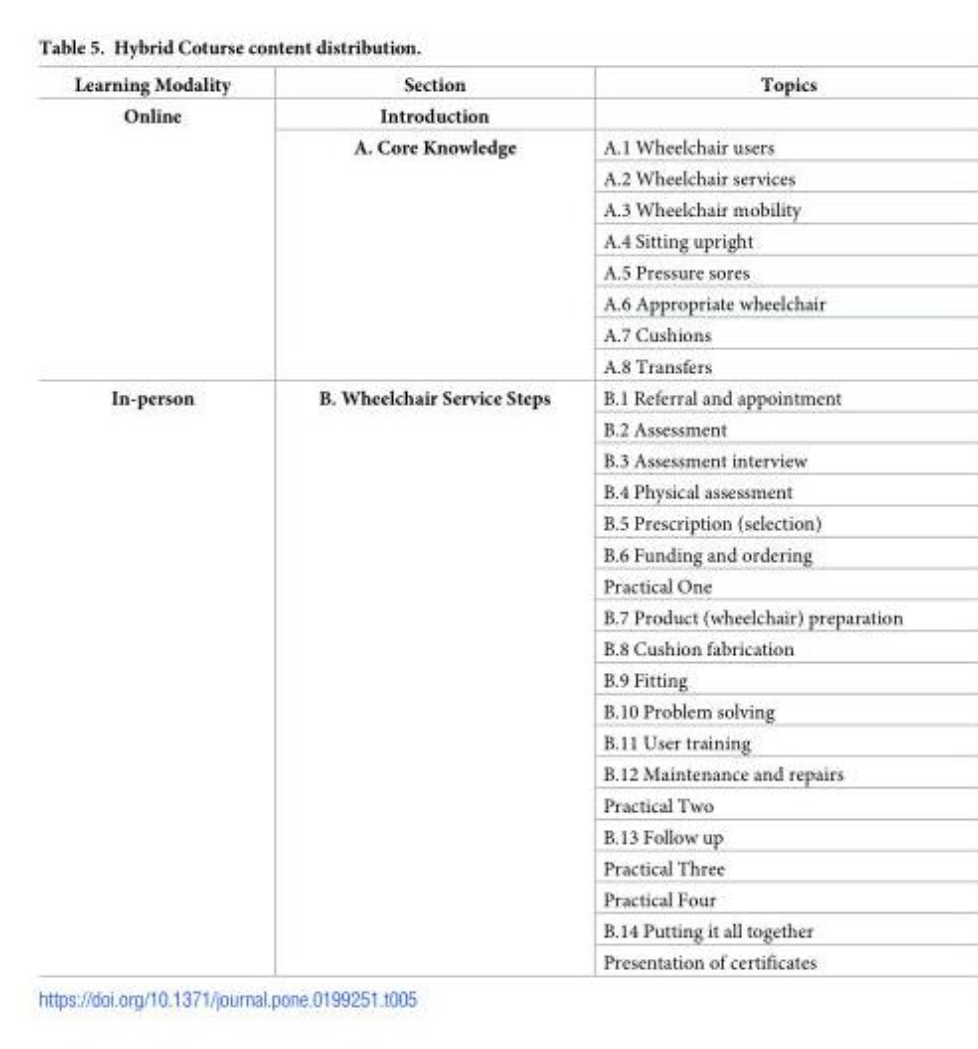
<table><thead><tr><td>Learning Modality</td><td>Section</td><td>Topics</td></tr></thead><tbody><tr><td rowspan="9">Online</td><td>Introduction</td><td></td></tr><tr><td rowspan="8">A. Core Knowledge</td><td>A.1 Wheelchair users</td></tr><tr><td>A.2 Wheelchair services</td></tr><tr><td>A.3 Wheelchair mobility</td></tr><tr><td>A.4 Sitting upright</td></tr><tr><td>A.5 Pressure sores</td></tr><tr><td>A.6 Appropriate wheelchair</td></tr><tr><td>A.7 Cushions</td></tr><tr><td>A.8 Transfers</td></tr><tr><td rowspan="19">In-person</td><td rowspan="19">B. Wheelchair Service Steps</td><td>B.1 Referral and appointment</td></tr><tr><td>B.2 Assessment</td></tr><tr><td>B.3 Assessment interview</td></tr><tr><td>B.4 Physical assessment</td></tr><tr><td>B.5 Prescription (selection)</td></tr><tr><td>B.6 Funding and ordering</td></tr><tr><td>Practical One</td></tr><tr><td>B.7 Product (wheelchair) preparation</td></tr><tr><td>B.8 Cushion fabrication</td></tr><tr><td>B.9 Fitting</td></tr><tr><td>B.10 Problem solving</td></tr><tr><td>B.11 User training</td></tr><tr><td>B.12 Maintenance and repairs</td></tr><tr><td>Practical Two</td></tr><tr><td>B.13 Follow up</td></tr><tr><td>Practical Three</td></tr><tr><td>Practical Four</td></tr><tr><td>B.14 Putting it all together</td></tr><tr><td>Presentation of certificates</td></tr></tbody></table>